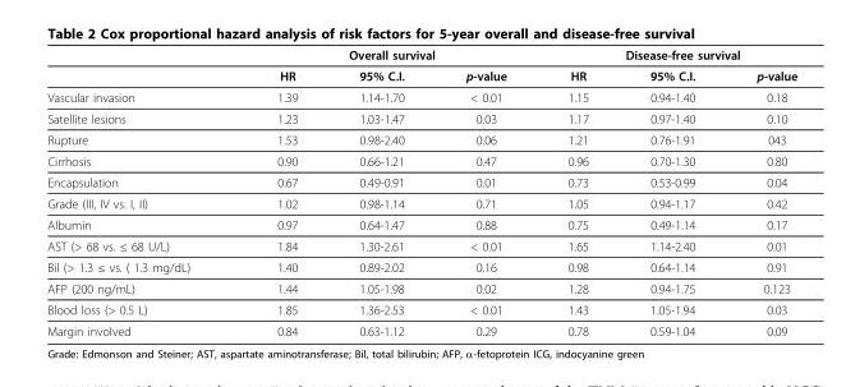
<table><thead><tr><td rowspan="2"></td><td colspan="3">Overall survival</td><td colspan="3">Disease-free survival</td></tr><tr><td>HR</td><td>95% C.I.</td><td>p-value</td><td>HR</td><td>95% C.I.</td><td>p-value</td></tr></thead><tbody><tr><td>Vascular invasion</td><td>1.39</td><td>1.14-1.70</td><td>&lt; 0.01</td><td>1.15</td><td>0.94-1.40</td><td>0.18</td></tr><tr><td>Satellite lesions</td><td>1.23</td><td>1.03-1.47</td><td>0.03</td><td>1.17</td><td>0.97-1.40</td><td>0.10</td></tr><tr><td>Rupture</td><td>1.53</td><td>0.98-2.40</td><td>0.06</td><td>1.21</td><td>0.76-1.91</td><td>043</td></tr><tr><td>Cirrhosis</td><td>0.90</td><td>0.66-1.21</td><td>0.47</td><td>0.96</td><td>0.70-1.30</td><td>0.80</td></tr><tr><td>Encapsulation</td><td>0.67</td><td>0.49-0.91</td><td>0.01</td><td>0.73</td><td>0.53-0.99</td><td>0.04</td></tr><tr><td>Grade (III, IV vs. I, II)</td><td>1.02</td><td>0.98-1.14</td><td>0.71</td><td>1.05</td><td>0.94-1.17</td><td>0.42</td></tr><tr><td>Albumin</td><td>0.97</td><td>0.64-1.47</td><td>0.88</td><td>0.75</td><td>0.49-1.14</td><td>0.17</td></tr><tr><td>AST (&gt; 68 vs. ≤ 68 U/L)</td><td>1.84</td><td>1.30-2.61</td><td>&lt; 0.01</td><td>1.65</td><td>1.14-2.40</td><td>0.01</td></tr><tr><td>Bil (&gt; 1.3 ≤ vs. ( 1.3 mg/dL)</td><td>1.40</td><td>0.89-2.02</td><td>0.16</td><td>0.98</td><td>0.64-1.14</td><td>0.91</td></tr><tr><td>AFP (200 ng/mL)</td><td>1.44</td><td>1.05-1.98</td><td>0.02</td><td>1.28</td><td>0.94-1.75</td><td>0.123</td></tr><tr><td>Blood loss (&gt; 0.5 L)</td><td>1.85</td><td>1.36-2.53</td><td>&lt; 0.01</td><td>1.43</td><td>1.05-1.94</td><td>0.03</td></tr><tr><td>Margin involved</td><td>0.84</td><td>0.63-1.12</td><td>0.29</td><td>0.78</td><td>0.59-1.04</td><td>0.09</td></tr></tbody></table>